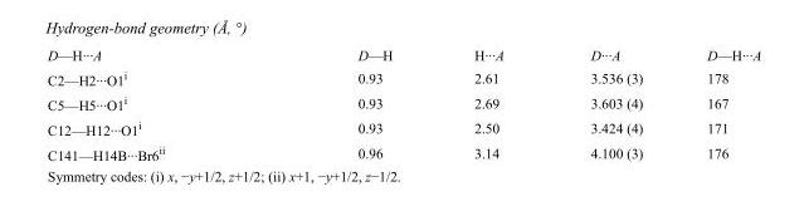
<table><tbody><tr><td>D—H···A</td><td>D—H</td><td>H···A</td><td>D···A</td><td>D—H···A</td></tr><tr><td>C2—H2···O1<sup>i</sup></td><td>0.93</td><td>2.61</td><td>3.536 (3)</td><td>178</td></tr><tr><td>C5—H5···O1<sup>i</sup></td><td>0.93</td><td>2.69</td><td>3.603 (4)</td><td>167</td></tr><tr><td>C12—H12···O1<sup>i</sup></td><td>0.93</td><td>2.50</td><td>3.424 (4)</td><td>171</td></tr><tr><td>C141—H14B···Br6<sup>ii</sup></td><td>0.96</td><td>3.14</td><td>4.100 (3)</td><td>176</td></tr></tbody></table>